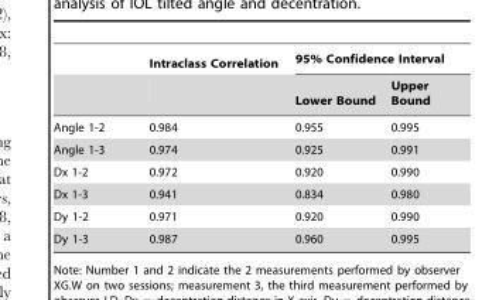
<table><thead><tr><td rowspan="2"></td><td rowspan="2">Intraclass Correlation</td><td colspan="2">95% Confidence Interval</td></tr><tr><td>Lower Bound</td><td>Upper Bound</td></tr></thead><tbody><tr><td>Angle 1-2</td><td>0.984</td><td>0.955</td><td>0.995</td></tr><tr><td>Angle 1-3</td><td>0.974</td><td>0.925</td><td>0.991</td></tr><tr><td>Dx 1-2</td><td>0.972</td><td>0.920</td><td>0.990</td></tr><tr><td>Dx 1-3</td><td>0.941</td><td>0.834</td><td>0.980</td></tr><tr><td>Dy 1-2</td><td>0.971</td><td>0.920</td><td>0.990</td></tr><tr><td>Dy 1-3</td><td>0.987</td><td>0.960</td><td>0.995</td></tr></tbody></table>